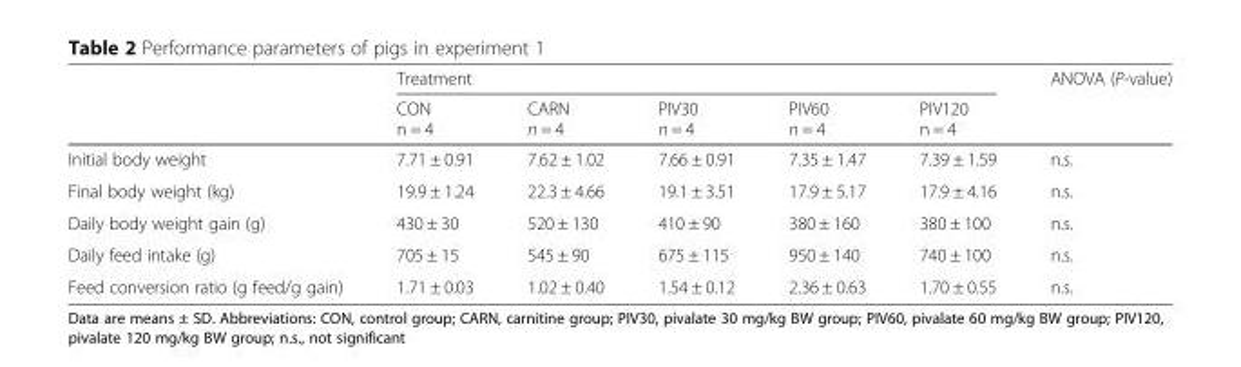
<table><thead><tr><td rowspan="2"></td><td colspan="5">Treatment</td><td rowspan="2">ANOVA (P-value)</td></tr><tr><td>CON n = 4</td><td>CARN n = 4</td><td>PIV30 n = 4</td><td>PIV60 n = 4</td><td>PIV120 n = 4</td></tr></thead><tbody><tr><td>Initial body weight</td><td>7.71 ± 0.91</td><td>7.62 ± 1.02</td><td>7.66 ± 0.91</td><td>7.35 ± 1.47</td><td>7.39 ± 1.59</td><td>n.s.</td></tr><tr><td>Final body weight (kg)</td><td>19.9 ± 1.24</td><td>22.3 ± 4.66</td><td>19.1 ± 3.51</td><td>17.9 ± 5.17</td><td>17.9 ± 4.16</td><td>n.s.</td></tr><tr><td>Daily body weight gain (g)</td><td>430 ± 30</td><td>520 ± 130</td><td>410 ± 90</td><td>380 ± 160</td><td>380 ± 100</td><td>n.s.</td></tr><tr><td>Daily feed intake (g)</td><td>705 ± 15</td><td>545 ± 90</td><td>675 ± 115</td><td>950 ± 140</td><td>740 ± 100</td><td>n.s.</td></tr><tr><td>Feed conversion ratio (g feed/g gain)</td><td>1.71 ± 0.03</td><td>1.02 ± 0.40</td><td>1.54 ± 0.12</td><td>2.36 ± 0.63</td><td>1.70 ± 0.55</td><td>n.s.</td></tr></tbody></table>